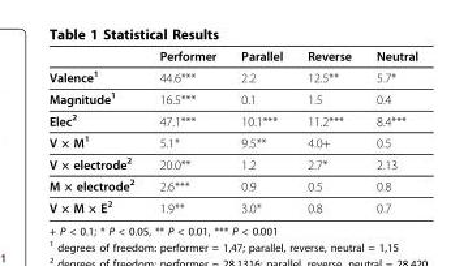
<table><thead><tr><td></td><td>Performer</td><td>Parallel</td><td>Reverse</td><td>Neutral</td></tr></thead><tbody><tr><td>Valence<sup>1</sup></td><td>44.6***</td><td>2.2</td><td>12.5**</td><td>5.7*</td></tr><tr><td>Magnitude<sup>1</sup></td><td>16.5***</td><td>0.1</td><td>1.5</td><td>0.4</td></tr><tr><td>Elec<sup>2</sup></td><td>47.1***</td><td>10.1***</td><td>11.2***</td><td>8.4***</td></tr><tr><td>V × M<sup>1</sup></td><td>5.1*</td><td>9.5**</td><td>4.0+</td><td>0.5</td></tr><tr><td>V × electrode<sup>2</sup></td><td>20.0**</td><td>1.2</td><td>2.7*</td><td>2.13</td></tr><tr><td>M × electrode<sup>2</sup></td><td>2.6***</td><td>0.9</td><td>0.5</td><td>0.8</td></tr><tr><td>V × M × E<sup>2</sup></td><td>1.9**</td><td>3.0*</td><td>0.8</td><td>0.7</td></tr></tbody></table>